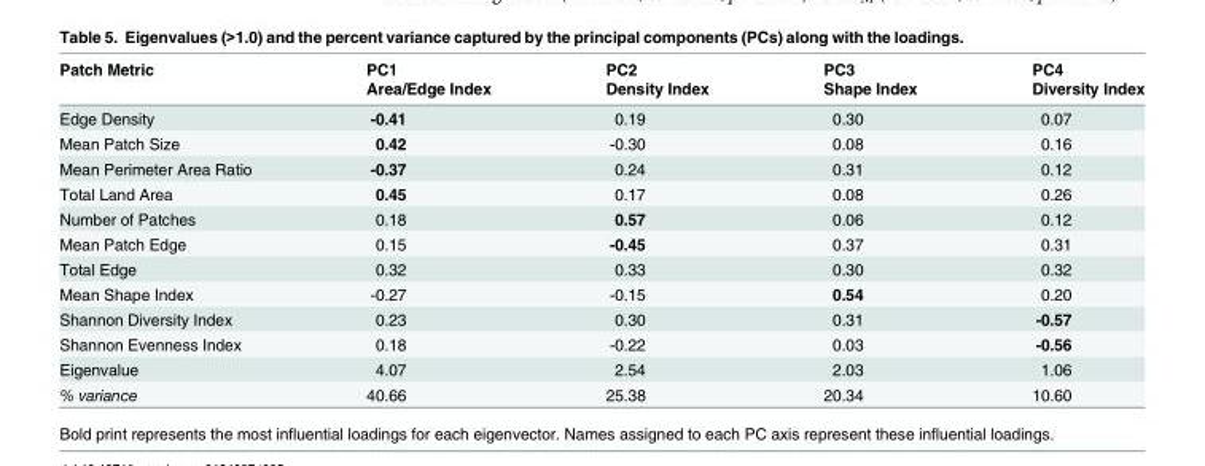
<table><thead><tr><td rowspan="2">Patch Metric</td><td rowspan="2">PC1 Area/Edge Index</td><td rowspan="2">PC2 Density Index</td><td rowspan="2">PC3 Shape Index</td><td rowspan="2">PC4 Diversity Index</td></tr><tr></tr></thead><tbody><tr><td>Edge Density</td><td>-0.41</td><td>0.19</td><td>0.30</td><td>0.07</td></tr><tr><td>Mean Patch Size</td><td>0.42</td><td>-0.30</td><td>0.08</td><td>0.16</td></tr><tr><td>Mean Perimeter Area Ratio</td><td>-0.37</td><td>0.24</td><td>0.31</td><td>0.12</td></tr><tr><td>Total Land Area</td><td>0.45</td><td>0.17</td><td>0.08</td><td>0.26</td></tr><tr><td>Number of Patches</td><td>0.18</td><td>0.57</td><td>0.06</td><td>0.12</td></tr><tr><td>Mean Patch Edge</td><td>0.15</td><td>-0.45</td><td>0.37</td><td>0.31</td></tr><tr><td>Total Edge</td><td>0.32</td><td>0.33</td><td>0.30</td><td>0.32</td></tr><tr><td>Mean Shape Index</td><td>-0.27</td><td>-0.15</td><td>0.54</td><td>0.20</td></tr><tr><td>Shannon Diversity Index</td><td>0.23</td><td>0.30</td><td>0.31</td><td>-0.57</td></tr><tr><td>Shannon Evenness Index</td><td>0.18</td><td>-0.22</td><td>0.03</td><td>-0.56</td></tr><tr><td>Eigenvalue</td><td>4.07</td><td>2.54</td><td>2.03</td><td>1.06</td></tr><tr><td>% variance</td><td>40.66</td><td>25.38</td><td>20.34</td><td>10.60</td></tr></tbody></table>